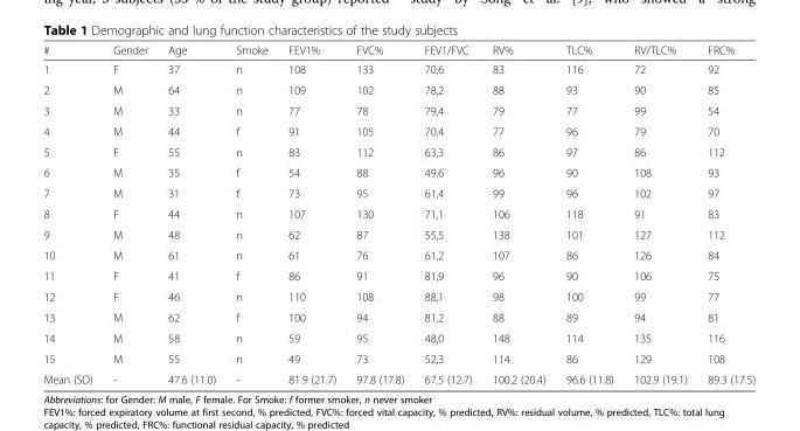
<table><thead><tr><td>#</td><td>Gender</td><td>Age</td><td>Smoke</td><td>FEV1%</td><td>FVC%</td><td>FEV1/FVC</td><td>RV%</td><td>TLC%</td><td>RV/TLC%</td><td>FRC%</td></tr></thead><tbody><tr><td>1</td><td>F</td><td>37</td><td>n</td><td>108</td><td>133</td><td>70,6</td><td>83</td><td>116</td><td>72</td><td>92</td></tr><tr><td>2</td><td>M</td><td>64</td><td>n</td><td>109</td><td>102</td><td>78,2</td><td>88</td><td>93</td><td>90</td><td>85</td></tr><tr><td>3</td><td>M</td><td>33</td><td>n</td><td>77</td><td>78</td><td>79,4</td><td>79</td><td>77</td><td>99</td><td>54</td></tr><tr><td>4</td><td>M</td><td>44</td><td>f</td><td>91</td><td>105</td><td>70,4</td><td>77</td><td>96</td><td>79</td><td>70</td></tr><tr><td>5</td><td>F</td><td>55</td><td>n</td><td>83</td><td>112</td><td>63,3</td><td>86</td><td>97</td><td>86</td><td>112</td></tr><tr><td>6</td><td>M</td><td>35</td><td>f</td><td>54</td><td>88</td><td>49,6</td><td>96</td><td>90</td><td>108</td><td>93</td></tr><tr><td>7</td><td>M</td><td>31</td><td>f</td><td>73</td><td>95</td><td>61,4</td><td>99</td><td>96</td><td>102</td><td>97</td></tr><tr><td>8</td><td>F</td><td>44</td><td>n</td><td>107</td><td>130</td><td>71,1</td><td>106</td><td>118</td><td>91</td><td>83</td></tr><tr><td>9</td><td>M</td><td>48</td><td>n</td><td>62</td><td>87</td><td>55,5</td><td>138</td><td>101</td><td>127</td><td>112</td></tr><tr><td>10</td><td>M</td><td>61</td><td>n</td><td>61</td><td>76</td><td>61,2</td><td>107</td><td>86</td><td>126</td><td>84</td></tr><tr><td>11</td><td>F</td><td>41</td><td>f</td><td>86</td><td>91</td><td>81,9</td><td>96</td><td>90</td><td>106</td><td>75</td></tr><tr><td>12</td><td>F</td><td>46</td><td>n</td><td>110</td><td>108</td><td>88,1</td><td>98</td><td>100</td><td>99</td><td>77</td></tr><tr><td>13</td><td>M</td><td>62</td><td>f</td><td>100</td><td>94</td><td>81,2</td><td>88</td><td>89</td><td>94</td><td>81</td></tr><tr><td>14</td><td>M</td><td>58</td><td>n</td><td>59</td><td>95</td><td>48,0</td><td>148</td><td>114</td><td>135</td><td>116</td></tr><tr><td>15</td><td>M</td><td>55</td><td>n</td><td>49</td><td>73</td><td>52,3</td><td>114</td><td>86</td><td>129</td><td>108</td></tr><tr><td>Mean (SD)</td><td>-</td><td>47.6 (11.0)</td><td>-</td><td>81.9 (21.7)</td><td>97.8 (17.8)</td><td>67.5 (12.7)</td><td>100.2 (20.4)</td><td>96.6 (11.8)</td><td>102.9 (19.1)</td><td>89.3 (17.5)</td></tr></tbody></table>